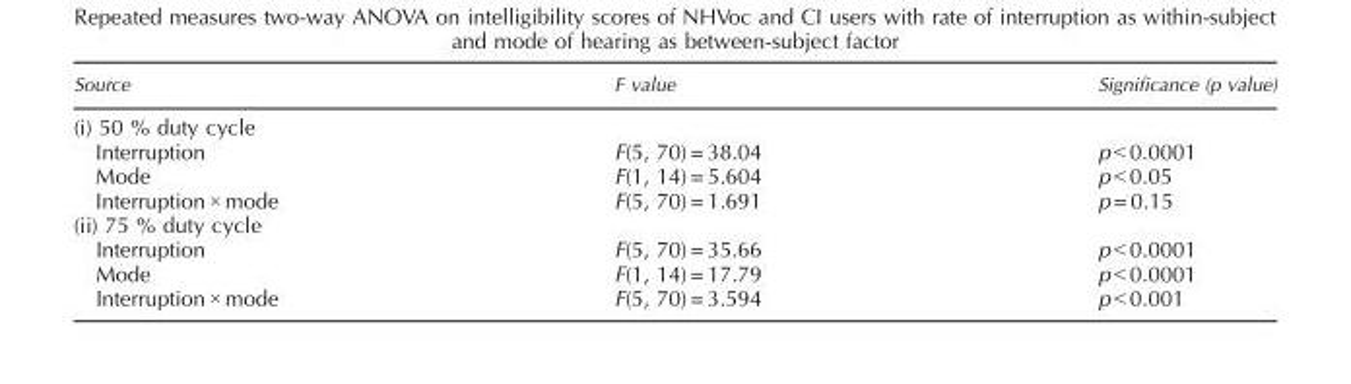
<table><thead><tr><td>Source</td><td>F value</td><td>Significance (p value)</td></tr></thead><tbody><tr><td colspan="3">(i) 50 % duty cycle</td></tr><tr><td>Interruption</td><td>F(5, 70) = 38.04</td><td>p &lt; 0.0001</td></tr><tr><td>Mode</td><td>F(1, 14) = 5.604</td><td>p &lt; 0.05</td></tr><tr><td>Interruption × mode</td><td>F(5, 70) = 1.691</td><td>p = 0.15</td></tr><tr><td colspan="3">(ii) 75 % duty cycle</td></tr><tr><td>Interruption</td><td>F(5, 70) = 35.66</td><td>p &lt; 0.0001</td></tr><tr><td>Mode</td><td>F(1, 14) = 17.79</td><td>p &lt; 0.0001</td></tr><tr><td>Interruption × mode</td><td>F(5, 70) = 3.594</td><td>p &lt; 0.001</td></tr></tbody></table>